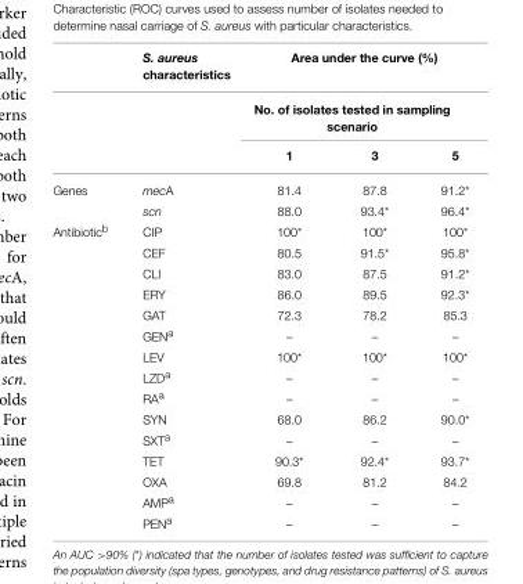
<table><thead><tr><td rowspan="3"></td><td rowspan="3">S. aureus characteristics</td><td rowspan="2" colspan="3">Area under the curve (%) No. of isolates tested in sampling scenario</td></tr><tr></tr><tr><td>1</td><td>3</td><td>5</td></tr></thead><tbody><tr><td rowspan="2">Genes</td><td>mecA</td><td>81.4</td><td>87.8</td><td>91.2*</td></tr><tr><td>scn</td><td>88.0</td><td>93.4*</td><td>96.4*</td></tr><tr><td rowspan="15">Antibiotic<sup>b</sup></td><td>CIP</td><td>100*</td><td>100*</td><td>100*</td></tr><tr><td>CEF</td><td>80.5</td><td>91.5*</td><td>95.8*</td></tr><tr><td>CLI</td><td>83.0</td><td>87.5</td><td>91.2*</td></tr><tr><td>ERY</td><td>86.0</td><td>89.5</td><td>92.3*</td></tr><tr><td>GAT</td><td>72.3</td><td>78.2</td><td>85.3</td></tr><tr><td>GEN<sup>a</sup></td><td>–</td><td>–</td><td>–</td></tr><tr><td>LEV</td><td>100*</td><td>100*</td><td>100*</td></tr><tr><td>LZD<sup>a</sup></td><td>–</td><td>–</td><td>–</td></tr><tr><td>RA<sup>a</sup></td><td>–</td><td>–</td><td>–</td></tr><tr><td>SYN</td><td>68.0</td><td>86.2</td><td>90.0*</td></tr><tr><td>SXT<sup>a</sup></td><td>–</td><td>–</td><td>–</td></tr><tr><td>TET</td><td>90.3*</td><td>92.4*</td><td>93.7*</td></tr><tr><td>OXA</td><td>69.8</td><td>81.2</td><td>84.2</td></tr><tr><td>AMP<sup>a</sup></td><td>–</td><td>–</td><td>–</td></tr><tr><td>PEN<sup>a</sup></td><td>–</td><td>–</td><td>–</td></tr></tbody></table>